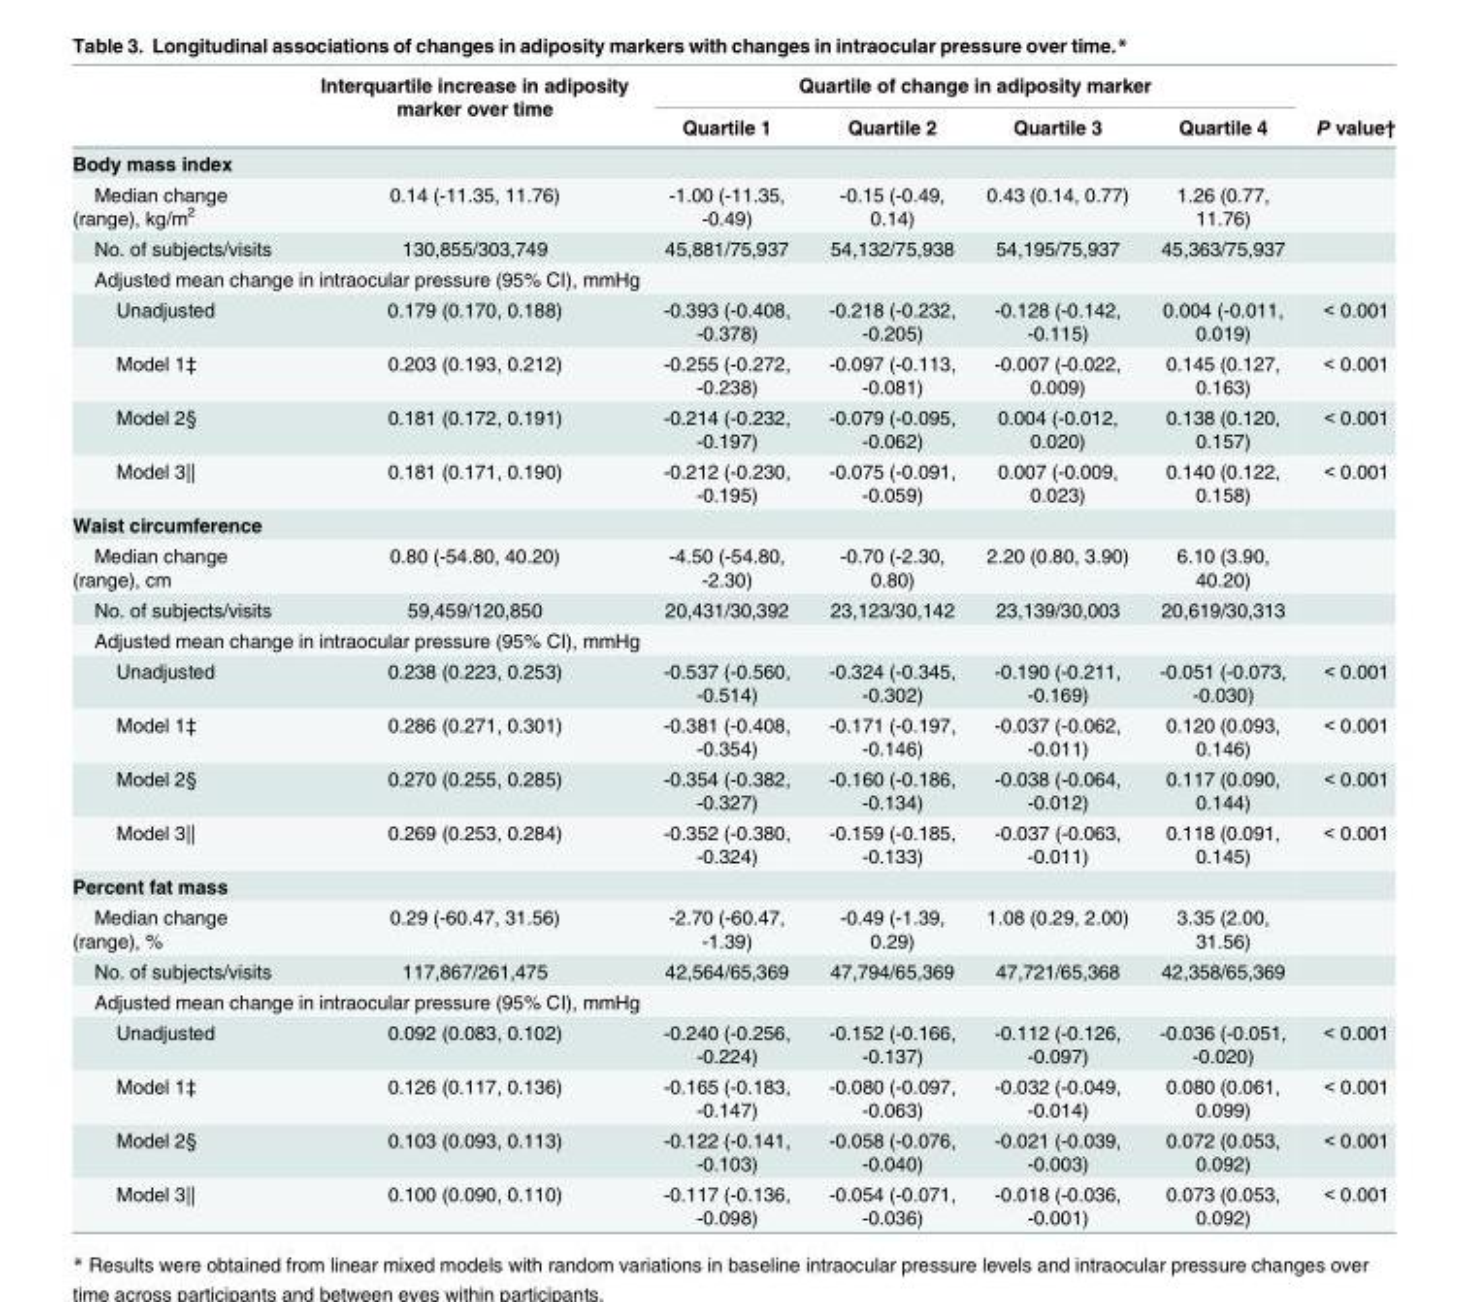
<table><thead><tr><td rowspan="2"></td><td rowspan="2">Interquartile increase in adiposity marker over time</td><td colspan="4">Quartile of change in adiposity marker</td><td rowspan="2">P value†</td></tr><tr><td>Quartile 1</td><td>Quartile 2</td><td>Quartile 3</td><td>Quartile 4</td></tr></thead><tbody><tr><td colspan="7">Body mass index</td></tr><tr><td>Median change (range), kg/m<sup>2</sup></td><td>0.14 (-11.35, 11.76)</td><td>-1.00 (-11.35, -0.49)</td><td>-0.15 (-0.49, 0.14)</td><td>0.43 (0.14, 0.77)</td><td>1.26 (0.77, 11.76)</td><td></td></tr><tr><td>No. of subjects/visits</td><td>130,855/303,749</td><td>45,881/75,937</td><td>54,132/75,938</td><td>54,195/75,937</td><td>45,363/75,937</td><td></td></tr><tr><td colspan="7">Adjusted mean change in intraocular pressure (95% CI), mmHg</td></tr><tr><td>Unadjusted</td><td>0.179 (0.170, 0.188)</td><td>-0.393 (-0.408, -0.378)</td><td>-0.218 (-0.232, -0.205)</td><td>-0.128 (-0.142, -0.115)</td><td>0.004 (-0.011, 0.019)</td><td>&lt; 0.001</td></tr><tr><td>Model 1‡</td><td>0.203 (0.193, 0.212)</td><td>-0.255 (-0.272, -0.238)</td><td>-0.097 (-0.113, -0.081)</td><td>-0.007 (-0.022, 0.009)</td><td>0.145 (0.127, 0.163)</td><td>&lt; 0.001</td></tr><tr><td>Model 2§</td><td>0.181 (0.172, 0.191)</td><td>-0.214 (-0.232, -0.197)</td><td>-0.079 (-0.095, -0.062)</td><td>0.004 (-0.012, 0.020)</td><td>0.138 (0.120, 0.157)</td><td>&lt; 0.001</td></tr><tr><td>Model 3||</td><td>0.181 (0.171, 0.190)</td><td>-0.212 (-0.230, -0.195)</td><td>-0.075 (-0.091, -0.059)</td><td>0.007 (-0.009, 0.023)</td><td>0.140 (0.122, 0.158)</td><td>&lt; 0.001</td></tr><tr><td colspan="7">Waist circumference</td></tr><tr><td>Median change (range), cm</td><td>0.80 (-54.80, 40.20)</td><td>-4.50 (-54.80, -2.30)</td><td>-0.70 (-2.30, 0.80)</td><td>2.20 (0.80, 3.90)</td><td>6.10 (3.90, 40.20)</td><td></td></tr><tr><td>No. of subjects/visits</td><td>59,459/120,850</td><td>20,431/30,392</td><td>23,123/30,142</td><td>23,139/30,003</td><td>20,619/30,313</td><td></td></tr><tr><td colspan="7">Adjusted mean change in intraocular pressure (95% CI), mmHg</td></tr><tr><td>Unadjusted</td><td>0.238 (0.223, 0.253)</td><td>-0.537 (-0.560, -0.514)</td><td>-0.324 (-0.345, -0.302)</td><td>-0.190 (-0.211, -0.169)</td><td>-0.051 (-0.073, -0.030)</td><td>&lt; 0.001</td></tr><tr><td>Model 1‡</td><td>0.286 (0.271, 0.301)</td><td>-0.381 (-0.408, -0.354)</td><td>-0.171 (-0.197, -0.146)</td><td>-0.037 (-0.062, -0.011)</td><td>0.120 (0.093, 0.146)</td><td>&lt; 0.001</td></tr><tr><td>Model 2§</td><td>0.270 (0.255, 0.285)</td><td>-0.354 (-0.382, -0.327)</td><td>-0.160 (-0.186, -0.134)</td><td>-0.038 (-0.064, -0.012)</td><td>0.117 (0.090, 0.144)</td><td>&lt; 0.001</td></tr><tr><td>Model 3||</td><td>0.269 (0.253, 0.284)</td><td>-0.352 (-0.380, -0.324)</td><td>-0.159 (-0.185, -0.133)</td><td>-0.037 (-0.063, -0.011)</td><td>0.118 (0.091, 0.145)</td><td>&lt; 0.001</td></tr><tr><td colspan="7">Percent fat mass</td></tr><tr><td>Median change (range), %</td><td>0.29 (-60.47, 31.56)</td><td>-2.70 (-60.47, -1.39)</td><td>-0.49 (-1.39, 0.29)</td><td>1.08 (0.29, 2.00)</td><td>3.35 (2.00, 31.56)</td><td></td></tr><tr><td>No. of subjects/visits</td><td>117,867/261,475</td><td>42,564/65,369</td><td>47,794/65,369</td><td>47,721/65,368</td><td>42,358/65,369</td><td></td></tr><tr><td colspan="7">Adjusted mean change in intraocular pressure (95% CI), mmHg</td></tr><tr><td>Unadjusted</td><td>0.092 (0.083, 0.102)</td><td>-0.240 (-0.256, -0.224)</td><td>-0.152 (-0.166, -0.137)</td><td>-0.112 (-0.126, -0.097)</td><td>-0.036 (-0.051, -0.020)</td><td>&lt; 0.001</td></tr><tr><td>Model 1‡</td><td>0.126 (0.117, 0.136)</td><td>-0.165 (-0.183, -0.147)</td><td>-0.080 (-0.097, -0.063)</td><td>-0.032 (-0.049, -0.014)</td><td>0.080 (0.061, 0.099)</td><td>&lt; 0.001</td></tr><tr><td>Model 2§</td><td>0.103 (0.093, 0.113)</td><td>-0.122 (-0.141, -0.103)</td><td>-0.058 (-0.076, -0.040)</td><td>-0.021 (-0.039, -0.003)</td><td>0.072 (0.053, 0.092)</td><td>&lt; 0.001</td></tr><tr><td>Model 3||</td><td>0.100 (0.090, 0.110)</td><td>-0.117 (-0.136, -0.098)</td><td>-0.054 (-0.071, -0.036)</td><td>-0.018 (-0.036, -0.001)</td><td>0.073 (0.053, 0.092)</td><td>&lt; 0.001</td></tr></tbody></table>